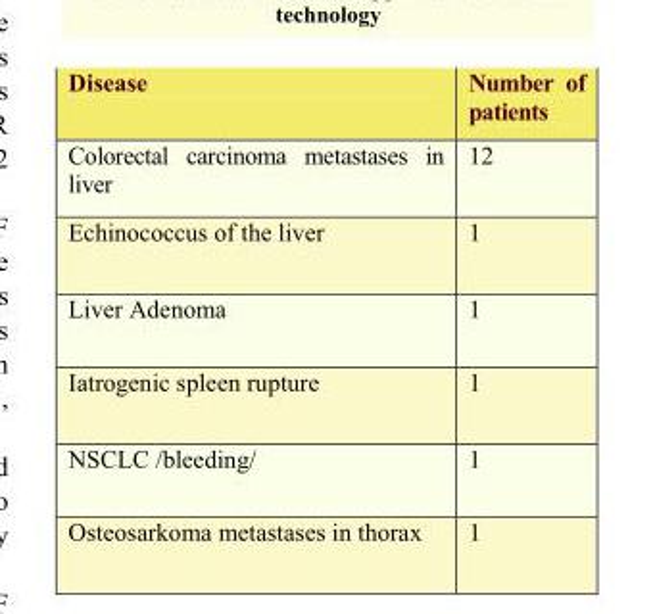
<table><thead><tr><td>Disease</td><td>Number of patients</td></tr></thead><tbody><tr><td>Colorectal carcinoma metastases in liver</td><td>12</td></tr><tr><td>Echinococcus of the liver</td><td>1</td></tr><tr><td>Liver Adenoma</td><td>1</td></tr><tr><td>Iatrogenic spleen rupture</td><td>1</td></tr><tr><td>NSCLC /bleeding/</td><td>1</td></tr><tr><td>Osteosarkoma metastases in thorax</td><td>1</td></tr></tbody></table>